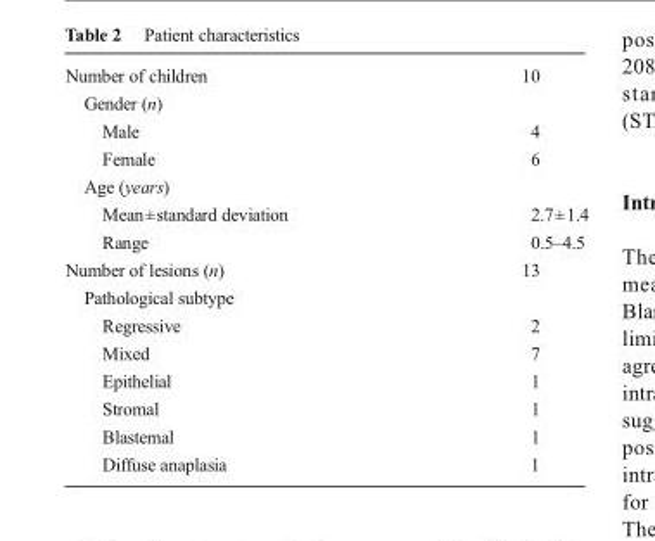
<table><tbody><tr><td>Number of children</td><td>10</td></tr><tr><td colspan="2">Gender (n)</td></tr><tr><td>Male</td><td>4</td></tr><tr><td>Female</td><td>6</td></tr><tr><td colspan="2">Age (years)</td></tr><tr><td>Mean±standard deviation</td><td>2.7±1.4</td></tr><tr><td>Range</td><td>0.5–4.5</td></tr><tr><td>Number of lesions (n)</td><td>13</td></tr><tr><td colspan="2">Pathological subtype</td></tr><tr><td>Regressive</td><td>2</td></tr><tr><td>Mixed</td><td>7</td></tr><tr><td>Epithelial</td><td>1</td></tr><tr><td>Stromal</td><td>1</td></tr><tr><td>Blastemal</td><td>1</td></tr><tr><td>Diffuse anaplasia</td><td>1</td></tr></tbody></table>